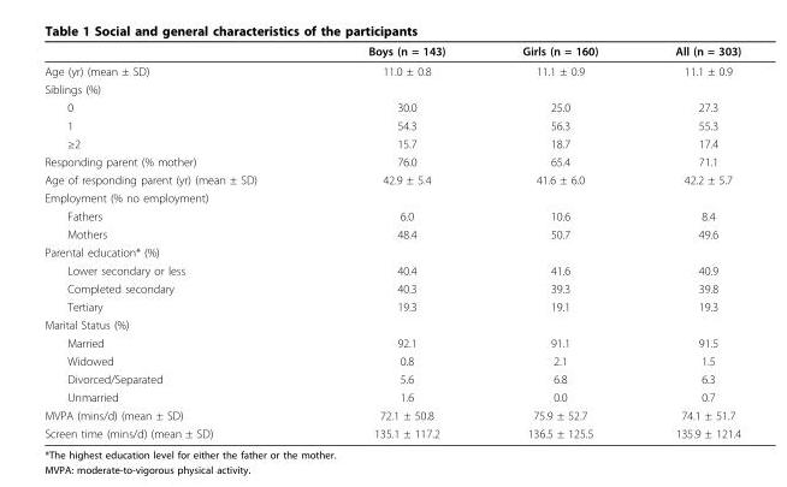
<table><thead><tr><td></td><td>Boys (n = 143)</td><td>Girls (n = 160)</td><td>All (n = 303)</td></tr></thead><tbody><tr><td>Age (yr) (mean ± SD)</td><td>11.0 ± 0.8</td><td>11.1 ± 0.9</td><td>11.1 ± 0.9</td></tr><tr><td colspan="4">Siblings (%)</td></tr><tr><td>0</td><td>30.0</td><td>25.0</td><td>27.3</td></tr><tr><td>1</td><td>54.3</td><td>56.3</td><td>55.3</td></tr><tr><td>≥2</td><td>15.7</td><td>18.7</td><td>17.4</td></tr><tr><td>Responding parent (% mother)</td><td>76.0</td><td>65.4</td><td>71.1</td></tr><tr><td>Age of responding parent (yr) (mean ± SD)</td><td>42.9 ± 5.4</td><td>41.6 ± 6.0</td><td>42.2 ± 5.7</td></tr><tr><td colspan="4">Employment (% no employment)</td></tr><tr><td>Fathers</td><td>6.0</td><td>10.6</td><td>8.4</td></tr><tr><td>Mothers</td><td>48.4</td><td>50.7</td><td>49.6</td></tr><tr><td colspan="4">Parental education* (%)</td></tr><tr><td>Lower secondary or less</td><td>40.4</td><td>41.6</td><td>40.9</td></tr><tr><td>Completed secondary</td><td>40.3</td><td>39.3</td><td>39.8</td></tr><tr><td>Tertiary</td><td>19.3</td><td>19.1</td><td>19.3</td></tr><tr><td colspan="4">Marital Status (%)</td></tr><tr><td>Married</td><td>92.1</td><td>91.1</td><td>91.5</td></tr><tr><td>Widowed</td><td>0.8</td><td>2.1</td><td>1.5</td></tr><tr><td>Divorced/Separated</td><td>5.6</td><td>6.8</td><td>6.3</td></tr><tr><td>Unmarried</td><td>1.6</td><td>0.0</td><td>0.7</td></tr><tr><td>MVPA (mins/d) (mean ± SD)</td><td>72.1 ± 50.8</td><td>75.9 ± 52.7</td><td>74.1 ± 51.7</td></tr><tr><td>Screen time (mins/d) (mean ± SD)</td><td>135.1 ± 117.2</td><td>136.5 ± 125.5</td><td>135.9 ± 121.4</td></tr></tbody></table>